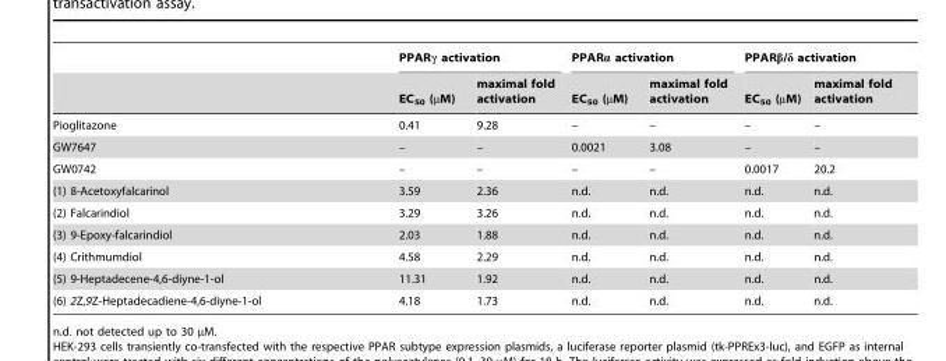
<table><thead><tr><td rowspan="2"></td><td colspan="2">PPARγ activation</td><td colspan="2">PPARα activation</td><td colspan="2">PPARβ/δ activation</td></tr><tr><td>EC<sub>50</sub> (µM)</td><td>maximal fold activation</td><td>EC<sub>50</sub> (µM)</td><td>maximal fold activation</td><td>EC<sub>50</sub> (µM)</td><td>maximal fold activation</td></tr></thead><tbody><tr><td>Pioglitazone</td><td>0.41</td><td>9.28</td><td>–</td><td>–</td><td>–</td><td>–</td></tr><tr><td>GW7647</td><td>–</td><td>–</td><td>0.0021</td><td>3.08</td><td>–</td><td>–</td></tr><tr><td>GW0742</td><td>–</td><td>–</td><td>–</td><td>–</td><td>0.0017</td><td>20.2</td></tr><tr><td>(1) 8-Acetoxyfalcarinol</td><td>3.59</td><td>2.36</td><td>n.d.</td><td>n.d.</td><td>n.d.</td><td>n.d.</td></tr><tr><td>(2) Falcarindiol</td><td>3.29</td><td>3.26</td><td>n.d.</td><td>n.d.</td><td>n.d.</td><td>n.d.</td></tr><tr><td>(3) 9-Epoxy-falcarindiol</td><td>2.03</td><td>1.88</td><td>n.d.</td><td>n.d.</td><td>n.d.</td><td>n.d.</td></tr><tr><td>(4) Crithmumdiol</td><td>4.58</td><td>2.29</td><td>n.d.</td><td>n.d.</td><td>n.d.</td><td>n.d.</td></tr><tr><td>(5) 9-Heptadecene-4,6-diyne-1-ol</td><td>11.31</td><td>1.92</td><td>n.d.</td><td>n.d.</td><td>n.d.</td><td>n.d.</td></tr><tr><td>(6) 2Z,9Z-Heptadecadiene-4,6-diyne-1-ol</td><td>4.18</td><td>1.73</td><td>n.d.</td><td>n.d.</td><td>n.d.</td><td>n.d.</td></tr></tbody></table>